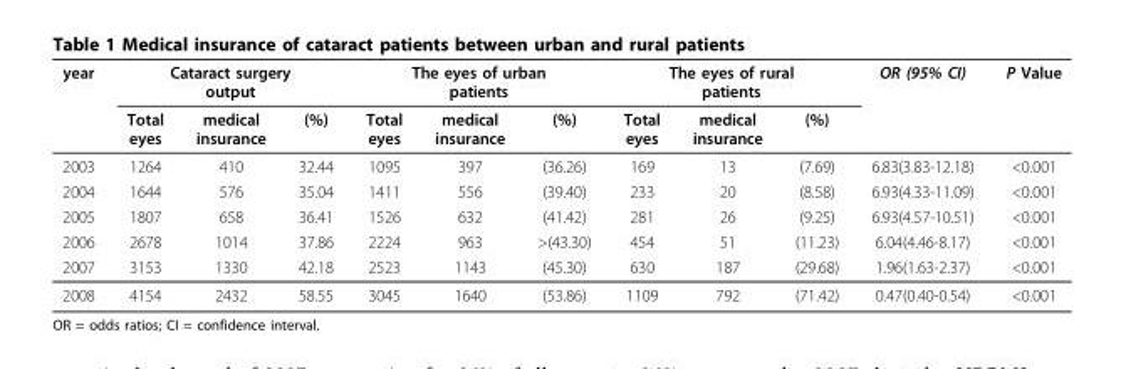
<table><thead><tr><td rowspan="2">year</td><td colspan="3">Cataract surgery output</td><td colspan="3">The eyes of urban patients</td><td colspan="3">The eyes of rural patients</td><td rowspan="2">OR (95% CI)</td><td rowspan="2">P Value</td></tr><tr><td>Total eyes</td><td>medical insurance</td><td>(%)</td><td>Total eyes</td><td>medical insurance</td><td>(%)</td><td>Total eyes</td><td>medical insurance</td><td>(%)</td></tr></thead><tbody><tr><td>2003</td><td>1264</td><td>410</td><td>32.44</td><td>1095</td><td>397</td><td>(36.26)</td><td>169</td><td>13</td><td>(7.69)</td><td>6.83(3.83-12.18)</td><td>&lt;0.001</td></tr><tr><td>2004</td><td>1644</td><td>576</td><td>35.04</td><td>1411</td><td>556</td><td>(39.40)</td><td>233</td><td>20</td><td>(8.58)</td><td>6.93(4.33-11.09)</td><td>&lt;0.001</td></tr><tr><td>2005</td><td>1807</td><td>658</td><td>36.41</td><td>1526</td><td>632</td><td>(41.42)</td><td>281</td><td>26</td><td>(9.25)</td><td>6.93(4.57-10.51)</td><td>&lt;0.001</td></tr><tr><td>2006</td><td>2678</td><td>1014</td><td>37.86</td><td>2224</td><td>963</td><td>&gt;(43.30)</td><td>454</td><td>51</td><td>(11.23)</td><td>6.04(4.46-8.17)</td><td>&lt;0.001</td></tr><tr><td>2007</td><td>3153</td><td>1330</td><td>42.18</td><td>2523</td><td>1143</td><td>(45.30)</td><td>630</td><td>187</td><td>(29.68)</td><td>1.96(1.63-2.37)</td><td>&lt;0.001</td></tr><tr><td>2008</td><td>4154</td><td>2432</td><td>58.55</td><td>3045</td><td>1640</td><td>(53.86)</td><td>1109</td><td>792</td><td>(71.42)</td><td>0.47(0.40-0.54)</td><td>&lt;0.001</td></tr></tbody></table>